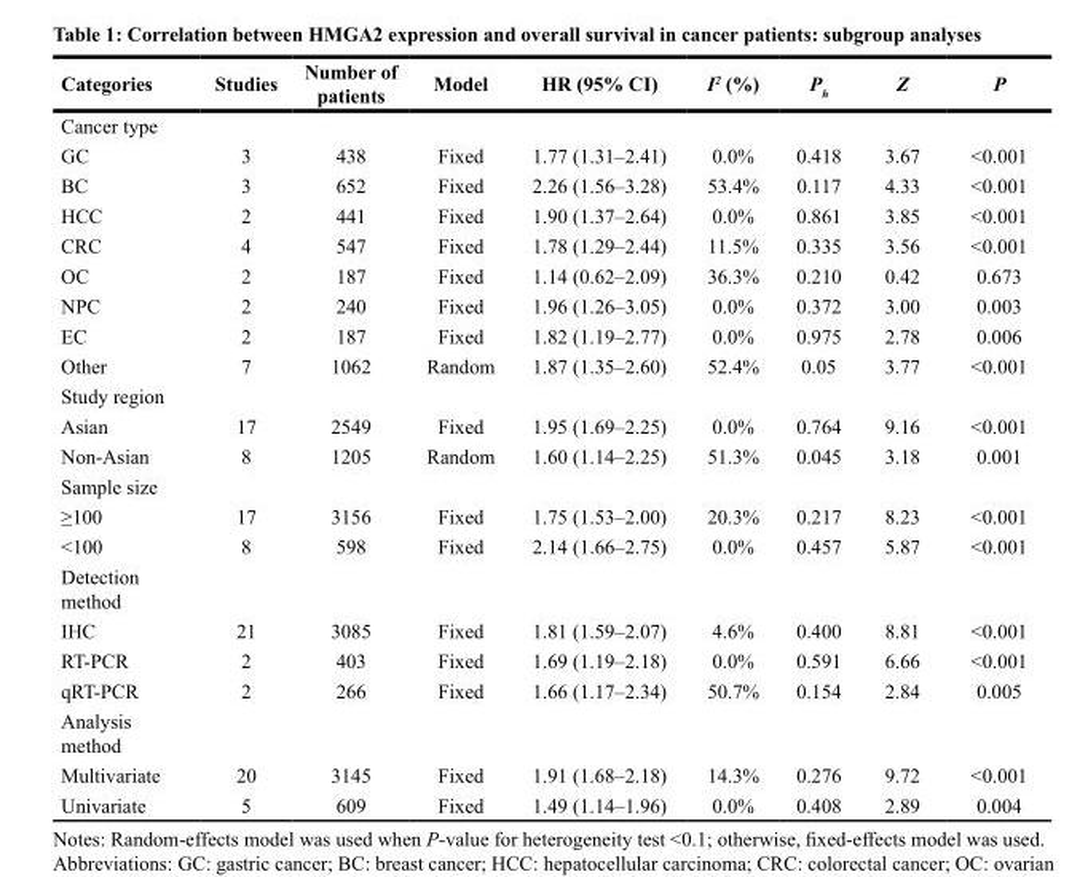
<table><thead><tr><td>Categories</td><td>Studies</td><td>Number of patients</td><td>Model</td><td>HR (95% CI)</td><td>I<sup>2</sup> (%)</td><td>P<sub>h</sub></td><td>Z</td><td>P</td></tr></thead><tbody><tr><td colspan="9">Cancer type</td></tr><tr><td>GC</td><td>3</td><td>438</td><td>Fixed</td><td>1.77 (1.31–2.41)</td><td>0.0%</td><td>0.418</td><td>3.67</td><td>&lt;0.001</td></tr><tr><td>BC</td><td>3</td><td>652</td><td>Fixed</td><td>2.26 (1.56–3.28)</td><td>53.4%</td><td>0.117</td><td>4.33</td><td>&lt;0.001</td></tr><tr><td>HCC</td><td>2</td><td>441</td><td>Fixed</td><td>1.90 (1.37–2.64)</td><td>0.0%</td><td>0.861</td><td>3.85</td><td>&lt;0.001</td></tr><tr><td>CRC</td><td>4</td><td>547</td><td>Fixed</td><td>1.78 (1.29–2.44)</td><td>11.5%</td><td>0.335</td><td>3.56</td><td>&lt;0.001</td></tr><tr><td>OC</td><td>2</td><td>187</td><td>Fixed</td><td>1.14 (0.62–2.09)</td><td>36.3%</td><td>0.210</td><td>0.42</td><td>0.673</td></tr><tr><td>NPC</td><td>2</td><td>240</td><td>Fixed</td><td>1.96 (1.26–3.05)</td><td>0.0%</td><td>0.372</td><td>3.00</td><td>0.003</td></tr><tr><td>EC</td><td>2</td><td>187</td><td>Fixed</td><td>1.82 (1.19–2.77)</td><td>0.0%</td><td>0.975</td><td>2.78</td><td>0.006</td></tr><tr><td>Other</td><td>7</td><td>1062</td><td>Random</td><td>1.87 (1.35–2.60)</td><td>52.4%</td><td>0.05</td><td>3.77</td><td>&lt;0.001</td></tr><tr><td colspan="9">Study region</td></tr><tr><td>Asian</td><td>17</td><td>2549</td><td>Fixed</td><td>1.95 (1.69–2.25)</td><td>0.0%</td><td>0.764</td><td>9.16</td><td>&lt;0.001</td></tr><tr><td>Non-Asian</td><td>8</td><td>1205</td><td>Random</td><td>1.60 (1.14–2.25)</td><td>51.3%</td><td>0.045</td><td>3.18</td><td>0.001</td></tr><tr><td colspan="9">Sample size</td></tr><tr><td>≥100</td><td>17</td><td>3156</td><td>Fixed</td><td>1.75 (1.53–2.00)</td><td>20.3%</td><td>0.217</td><td>8.23</td><td>&lt;0.001</td></tr><tr><td>&lt;100</td><td>8</td><td>598</td><td>Fixed</td><td>2.14 (1.66–2.75)</td><td>0.0%</td><td>0.457</td><td>5.87</td><td>&lt;0.001</td></tr><tr><td colspan="9">Detection method</td></tr><tr><td>IHC</td><td>21</td><td>3085</td><td>Fixed</td><td>1.81 (1.59–2.07)</td><td>4.6%</td><td>0.400</td><td>8.81</td><td>&lt;0.001</td></tr><tr><td>RT-PCR</td><td>2</td><td>403</td><td>Fixed</td><td>1.69 (1.19–2.18)</td><td>0.0%</td><td>0.591</td><td>6.66</td><td>&lt;0.001</td></tr><tr><td>qRT-PCR</td><td>2</td><td>266</td><td>Fixed</td><td>1.66 (1.17–2.34)</td><td>50.7%</td><td>0.154</td><td>2.84</td><td>0.005</td></tr><tr><td colspan="9">Analysis method</td></tr><tr><td>Multivariate</td><td>20</td><td>3145</td><td>Fixed</td><td>1.91 (1.68–2.18)</td><td>14.3%</td><td>0.276</td><td>9.72</td><td>&lt;0.001</td></tr><tr><td>Univariate</td><td>5</td><td>609</td><td>Fixed</td><td>1.49 (1.14–1.96)</td><td>0.0%</td><td>0.408</td><td>2.89</td><td>0.004</td></tr></tbody></table>